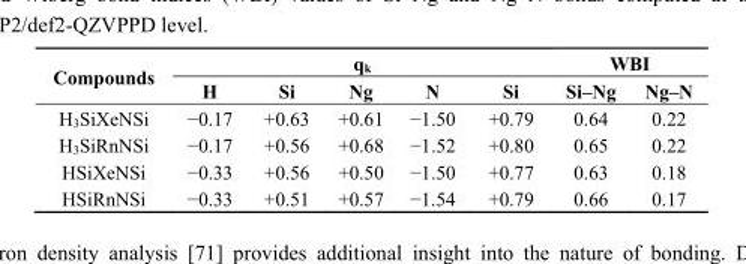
<table><thead><tr><td rowspan="2">Compounds</td><td colspan="5">q<sub>k</sub></td><td colspan="2">WBI</td></tr><tr><td>H</td><td>Si</td><td>Ng</td><td>N</td><td>Si</td><td>Si–Ng</td><td>Ng–N</td></tr></thead><tbody><tr><td>H<sub>3</sub>SiXeNSi</td><td>−0.17</td><td>+0.63</td><td>+0.61</td><td>−1.50</td><td>+0.79</td><td>0.64</td><td>0.22</td></tr><tr><td>H<sub>3</sub>SiRnNSi</td><td>−0.17</td><td>+0.56</td><td>+0.68</td><td>−1.52</td><td>+0.80</td><td>0.65</td><td>0.22</td></tr><tr><td>HSiXeNSi</td><td>−0.33</td><td>+0.56</td><td>+0.50</td><td>−1.50</td><td>+0.77</td><td>0.63</td><td>0.18</td></tr><tr><td>HSiRnNSi</td><td>−0.33</td><td>+0.51</td><td>+0.57</td><td>−1.54</td><td>+0.79</td><td>0.66</td><td>0.17</td></tr></tbody></table>